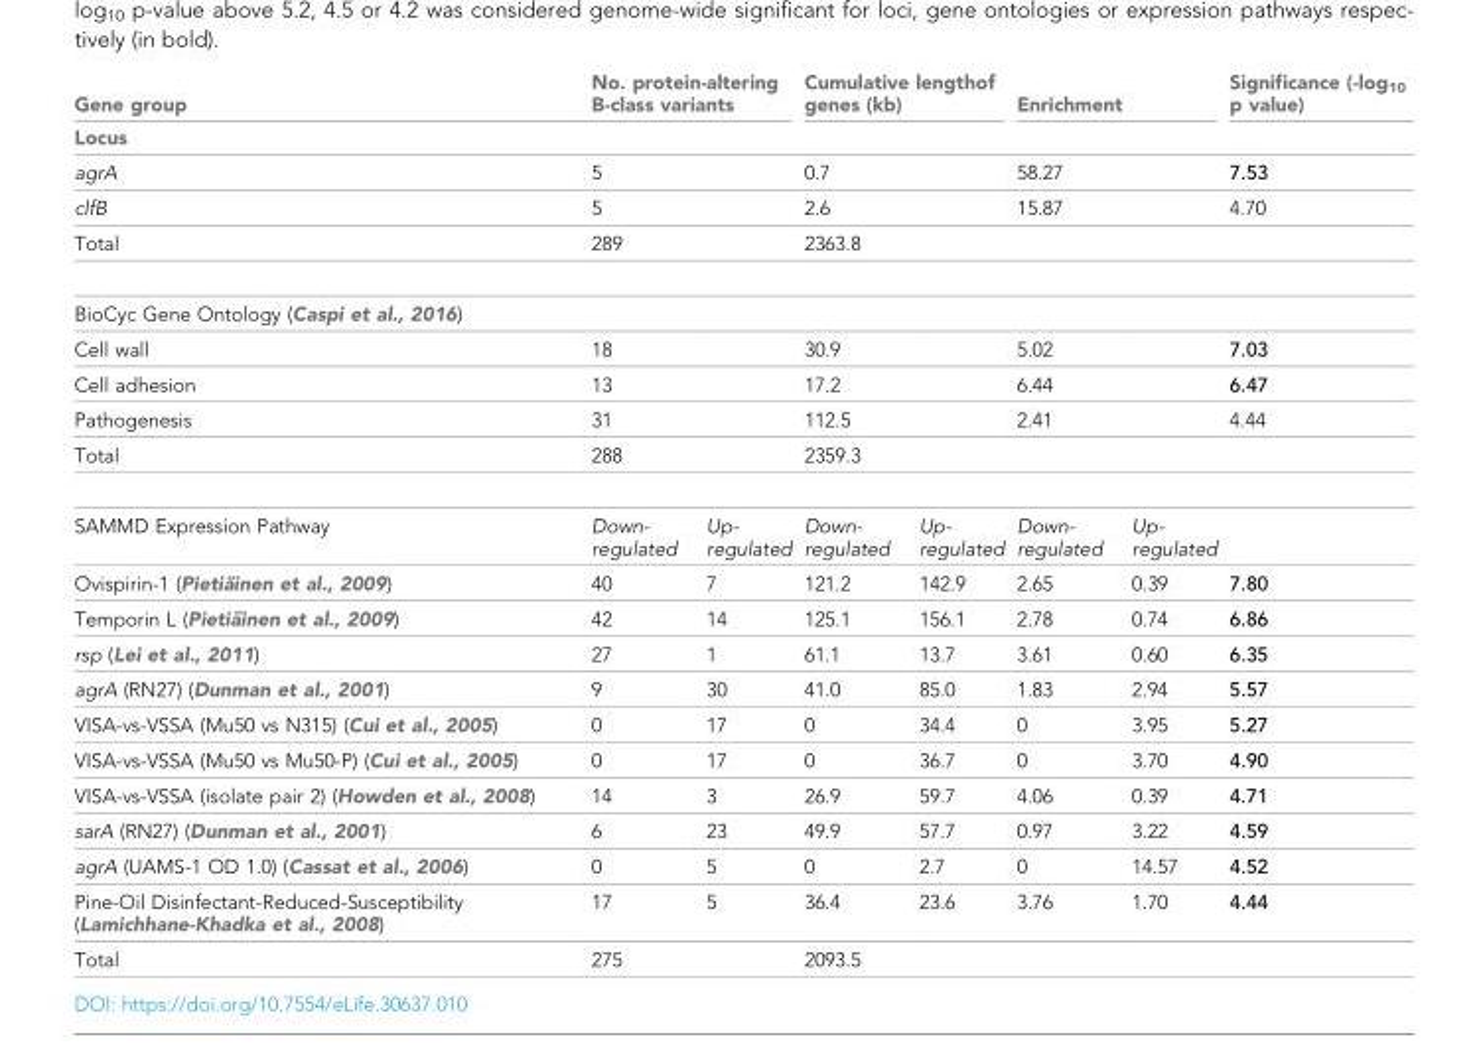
<table><thead><tr><td rowspan="2">Gene group Locus</td><td colspan="2">No. protein-altering B-class variants</td><td colspan="2">Cumulative lengthof genes (kb)</td><td colspan="2">Enrichment</td><td rowspan="2">Significance (-log<sub>10</sub> p value)</td></tr><tr><td></td><td></td><td></td><td></td><td></td><td></td></tr></thead><tbody><tr><td>agrA</td><td>5</td><td></td><td>0.7</td><td></td><td>58.27</td><td></td><td>7.53</td></tr><tr><td>clfB</td><td>5</td><td></td><td>2.6</td><td></td><td>15.87</td><td></td><td>4.70</td></tr><tr><td>Total</td><td>289</td><td></td><td>2363.8</td><td></td><td></td><td></td><td></td></tr><tr><td colspan="8">BioCyc Gene Ontology (Caspi et al., 2016)</td></tr><tr><td>Cell wall</td><td>18</td><td></td><td>30.9</td><td></td><td>5.02</td><td></td><td>7.03</td></tr><tr><td>Cell adhesion</td><td>13</td><td></td><td>17.2</td><td></td><td>6.44</td><td></td><td>6.47</td></tr><tr><td>Pathogenesis</td><td>31</td><td></td><td>112.5</td><td></td><td>2.41</td><td></td><td>4.44</td></tr><tr><td>Total</td><td>288</td><td></td><td>2359.3</td><td></td><td></td><td></td><td></td></tr><tr><td>SAMMD Expression Pathway</td><td>Down- regulated</td><td>Up- regulated</td><td>Down- regulated</td><td>Up- regulated</td><td>Down- regulated</td><td>Up- regulated</td><td></td></tr><tr><td>Ovispirin-1 (Pietia¨inen et al., 2009)</td><td>40</td><td>7</td><td>121.2</td><td>142.9</td><td>2.65</td><td>0.39</td><td>7.80</td></tr><tr><td>Temporin L (Pietia¨inen et al., 2009)</td><td>42</td><td>14</td><td>125.1</td><td>156.1</td><td>2.78</td><td>0.74</td><td>6.86</td></tr><tr><td>rsp (Lei et al., 2011)</td><td>27</td><td>1</td><td>61.1</td><td>13.7</td><td>3.61</td><td>0.60</td><td>6.35</td></tr><tr><td>agrA (RN27) (Dunman et al., 2001)</td><td>9</td><td>30</td><td>41.0</td><td>85.0</td><td>1.83</td><td>2.94</td><td>5.57</td></tr><tr><td>VISA-vs-VSSA (Mu50 vs N315) (Cui et al., 2005)</td><td>0</td><td>17</td><td>0</td><td>34.4</td><td>0</td><td>3.95</td><td>5.27</td></tr><tr><td>VISA-vs-VSSA (Mu50 vs Mu50-P) (Cui et al., 2005)</td><td>0</td><td>17</td><td>0</td><td>36.7</td><td>0</td><td>3.70</td><td>4.90</td></tr><tr><td>VISA-vs-VSSA (isolate pair 2) (Howden et al., 2008)</td><td>14</td><td>3</td><td>26.9</td><td>59.7</td><td>4.06</td><td>0.39</td><td>4.71</td></tr><tr><td>sarA (RN27) (Dunman et al., 2001)</td><td>6</td><td>23</td><td>49.9</td><td>57.7</td><td>0.97</td><td>3.22</td><td>4.59</td></tr><tr><td>agrA (UAMS-1 OD 1.0) (Cassat et al., 2006)</td><td>0</td><td>5</td><td>0</td><td>2.7</td><td>0</td><td>14.57</td><td>4.52</td></tr><tr><td>Pine-Oil Disinfectant-Reduced-Susceptibility (Lamichhane-Khadka et al., 2008)</td><td>17</td><td>5</td><td>36.4</td><td>23.6</td><td>3.76</td><td>1.70</td><td>4.44</td></tr><tr><td>Total</td><td colspan="2">275</td><td colspan="2">2093.5</td><td></td><td></td><td></td></tr></tbody></table>